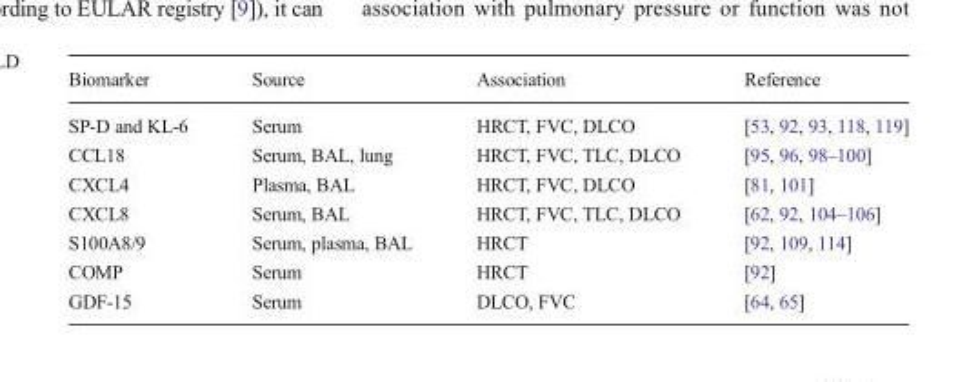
<table><thead><tr><td>Biomarker</td><td>Source</td><td>Association</td><td>Reference</td></tr></thead><tbody><tr><td>SP-D and KL-6</td><td>Serum</td><td>HRCT, FVC, DLCO</td><td>[53, 92, 93, 118, 119]</td></tr><tr><td>CCL18</td><td>Serum, BAL, lung</td><td>HRCT, FVC, TLC, DLCO</td><td>[95, 96, 98–100]</td></tr><tr><td>CXCL4</td><td>Plasma, BAL</td><td>HRCT, FVC, DLCO</td><td>[81, 101]</td></tr><tr><td>CXCL8</td><td>Serum, BAL</td><td>HRCT, FVC, TLC, DLCO</td><td>[62, 92, 104–106]</td></tr><tr><td>S100A8/9</td><td>Serum, plasma, BAL</td><td>HRCT</td><td>[92, 109, 114]</td></tr><tr><td>COMP</td><td>Serum</td><td>HRCT</td><td>[92]</td></tr><tr><td>GDF-15</td><td>Serum</td><td>DLCO, FVC</td><td>[64, 65]</td></tr></tbody></table>